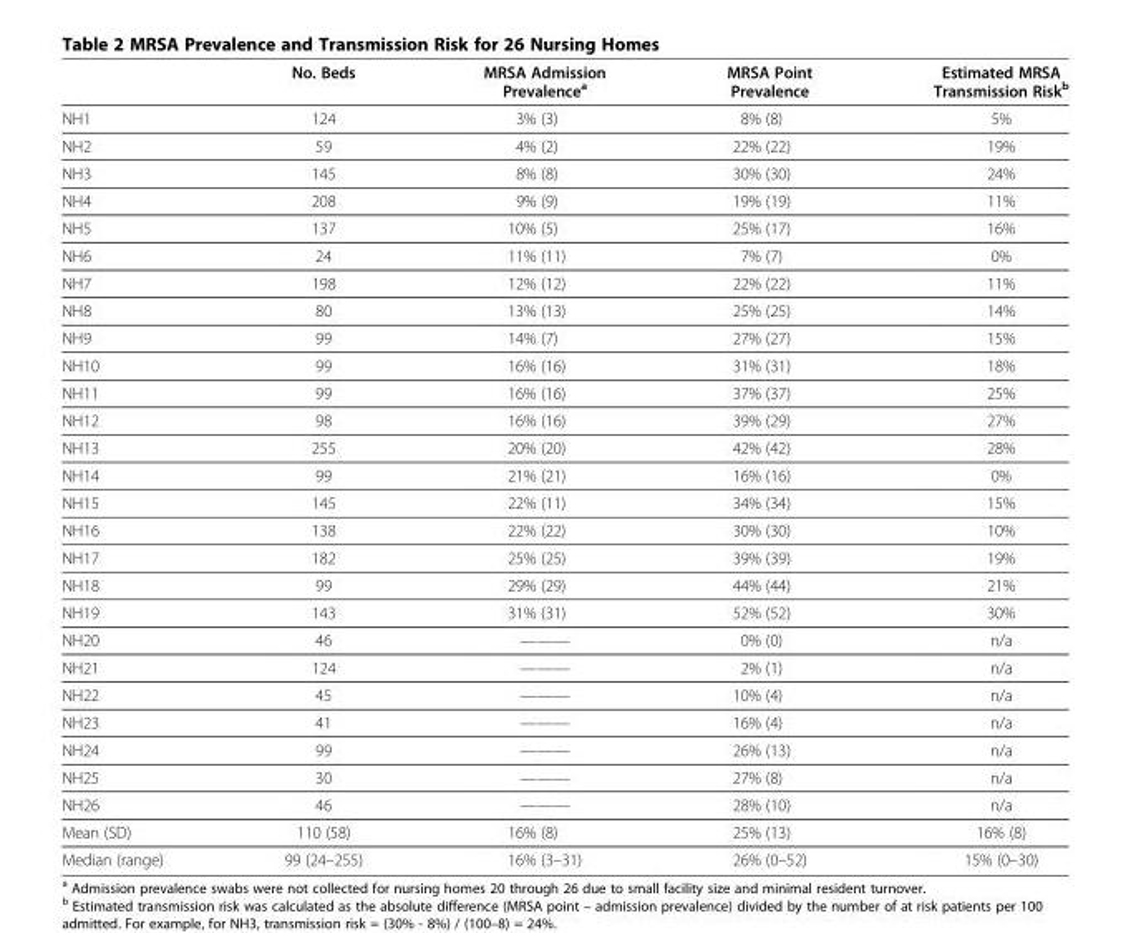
<table><thead><tr><td></td><td>No. Beds</td><td>MRSA Admission Prevalence<sup>a</sup></td><td>MRSA Point Prevalence</td><td>Estimated MRSA Transmission Risk<sup>b</sup></td></tr></thead><tbody><tr><td>NH1</td><td>124</td><td>3% (3)</td><td>8% (8)</td><td>5%</td></tr><tr><td>NH2</td><td>59</td><td>4% (2)</td><td>22% (22)</td><td>19%</td></tr><tr><td>NH3</td><td>145</td><td>8% (8)</td><td>30% (30)</td><td>24%</td></tr><tr><td>NH4</td><td>208</td><td>9% (9)</td><td>19% (19)</td><td>11%</td></tr><tr><td>NH5</td><td>137</td><td>10% (5)</td><td>25% (17)</td><td>16%</td></tr><tr><td>NH6</td><td>24</td><td>11% (11)</td><td>7% (7)</td><td>0%</td></tr><tr><td>NH7</td><td>198</td><td>12% (12)</td><td>22% (22)</td><td>11%</td></tr><tr><td>NH8</td><td>80</td><td>13% (13)</td><td>25% (25)</td><td>14%</td></tr><tr><td>NH9</td><td>99</td><td>14% (7)</td><td>27% (27)</td><td>15%</td></tr><tr><td>NH10</td><td>99</td><td>16% (16)</td><td>31% (31)</td><td>18%</td></tr><tr><td>NH11</td><td>99</td><td>16% (16)</td><td>37% (37)</td><td>25%</td></tr><tr><td>NH12</td><td>98</td><td>16% (16)</td><td>39% (29)</td><td>27%</td></tr><tr><td>NH13</td><td>255</td><td>20% (20)</td><td>42% (42)</td><td>28%</td></tr><tr><td>NH14</td><td>99</td><td>21% (21)</td><td>16% (16)</td><td>0%</td></tr><tr><td>NH15</td><td>145</td><td>22% (11)</td><td>34% (34)</td><td>15%</td></tr><tr><td>NH16</td><td>138</td><td>22% (22)</td><td>30% (30)</td><td>10%</td></tr><tr><td>NH17</td><td>182</td><td>25% (25)</td><td>39% (39)</td><td>19%</td></tr><tr><td>NH18</td><td>99</td><td>29% (29)</td><td>44% (44)</td><td>21%</td></tr><tr><td>NH19</td><td>143</td><td>31% (31)</td><td>52% (52)</td><td>30%</td></tr><tr><td>NH20</td><td>46</td><td>———</td><td>0% (0)</td><td>n/a</td></tr><tr><td>NH21</td><td>124</td><td>———</td><td>2% (1)</td><td>n/a</td></tr><tr><td>NH22</td><td>45</td><td>———</td><td>10% (4)</td><td>n/a</td></tr><tr><td>NH23</td><td>41</td><td>———</td><td>16% (4)</td><td>n/a</td></tr><tr><td>NH24</td><td>99</td><td>———</td><td>26% (13)</td><td>n/a</td></tr><tr><td>NH25</td><td>30</td><td>———</td><td>27% (8)</td><td>n/a</td></tr><tr><td>NH26</td><td>46</td><td>———</td><td>28% (10)</td><td>n/a</td></tr><tr><td>Mean (SD)</td><td>110 (58)</td><td>16% (8)</td><td>25% (13)</td><td>16% (8)</td></tr><tr><td>Median (range)</td><td>99 (24–255)</td><td>16% (3–31)</td><td>26% (0–52)</td><td>15% (0–30)</td></tr></tbody></table>